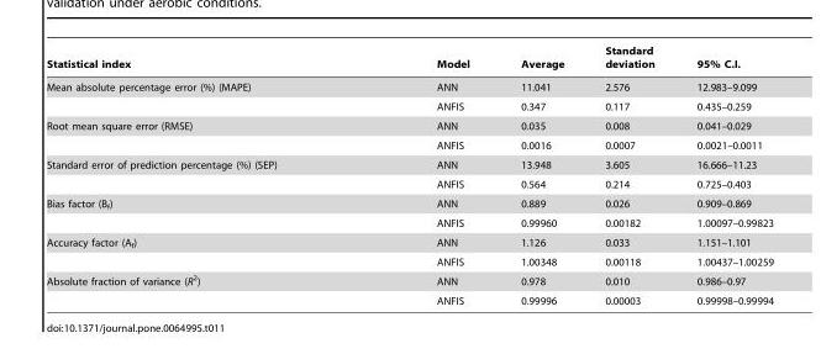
<table><thead><tr><td>Statistical index</td><td>Model</td><td>Average</td><td>Standard deviation</td><td>95% C.I.</td></tr></thead><tbody><tr><td rowspan="2">Mean absolute percentage error (%) (MAPE)</td><td>ANN</td><td>11.041</td><td>2.576</td><td>12.983–9.099</td></tr><tr><td>ANFIS</td><td>0.347</td><td>0.117</td><td>0.435–0.259</td></tr><tr><td rowspan="2">Root mean square error (RMSE)</td><td>ANN</td><td>0.035</td><td>0.008</td><td>0.041–0.029</td></tr><tr><td>ANFIS</td><td>0.0016</td><td>0.0007</td><td>0.0021–0.0011</td></tr><tr><td rowspan="2">Standard error of prediction percentage (%) (SEP)</td><td>ANN</td><td>13.948</td><td>3.605</td><td>16.666–11.23</td></tr><tr><td>ANFIS</td><td>0.564</td><td>0.214</td><td>0.725–0.403</td></tr><tr><td rowspan="2">Bias factor (B<sub>f</sub>)</td><td>ANN</td><td>0.889</td><td>0.026</td><td>0.909–0.869</td></tr><tr><td>ANFIS</td><td>0.99960</td><td>0.00182</td><td>1.00097–0.99823</td></tr><tr><td rowspan="2">Accuracy factor (A<sub>f</sub>)</td><td>ANN</td><td>1.126</td><td>0.033</td><td>1.151–1.101</td></tr><tr><td>ANFIS</td><td>1.00348</td><td>0.00118</td><td>1.00437–1.00259</td></tr><tr><td rowspan="2">Absolute fraction of variance (R<sup>2</sup>)</td><td>ANN</td><td>0.978</td><td>0.010</td><td>0.986–0.97</td></tr><tr><td>ANFIS</td><td>0.99996</td><td>0.00003</td><td>0.99998–0.99994</td></tr></tbody></table>